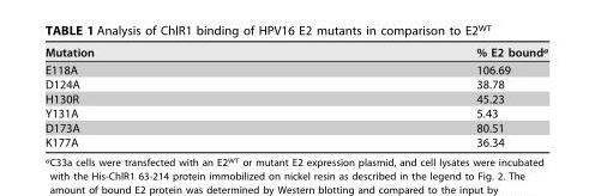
<table><thead><tr><td>Mutation</td><td>% E2 bound<sup>a</sup></td></tr></thead><tbody><tr><td>E118A</td><td>106.69</td></tr><tr><td>D124A</td><td>38.78</td></tr><tr><td>H130R</td><td>45.23</td></tr><tr><td>Y131A</td><td>5.43</td></tr><tr><td>D173A</td><td>80.51</td></tr><tr><td>K177A</td><td>36.34</td></tr></tbody></table>